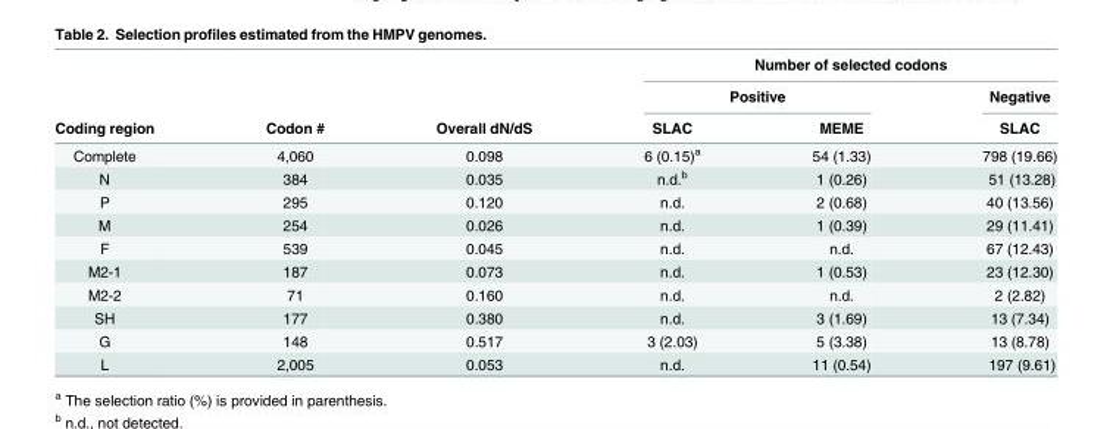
<table><thead><tr><td rowspan="3">Coding region</td><td rowspan="3">Codon #</td><td rowspan="3">Overall dN/dS</td><td colspan="3">Number of selected codons</td></tr><tr><td colspan="2">Positive</td><td rowspan="2">Negative SLAC</td></tr><tr><td>SLAC</td><td>MEME</td></tr></thead><tbody><tr><td>Complete</td><td>4,060</td><td>0.098</td><td>6 (0.15)<sup>a</sup></td><td>54 (1.33)</td><td>798 (19.66)</td></tr><tr><td>N</td><td>384</td><td>0.035</td><td>n.d.<sup>b</sup></td><td>1 (0.26)</td><td>51 (13.28)</td></tr><tr><td>P</td><td>295</td><td>0.120</td><td>n.d.</td><td>2 (0.68)</td><td>40 (13.56)</td></tr><tr><td>M</td><td>254</td><td>0.026</td><td>n.d.</td><td>1 (0.39)</td><td>29 (11.41)</td></tr><tr><td>F</td><td>539</td><td>0.045</td><td>n.d.</td><td>n.d.</td><td>67 (12.43)</td></tr><tr><td>M2-1</td><td>187</td><td>0.073</td><td>n.d.</td><td>1 (0.53)</td><td>23 (12.30)</td></tr><tr><td>M2-2</td><td>71</td><td>0.160</td><td>n.d.</td><td>n.d.</td><td>2 (2.82)</td></tr><tr><td>SH</td><td>177</td><td>0.380</td><td>n.d.</td><td>3 (1.69)</td><td>13 (7.34)</td></tr><tr><td>G</td><td>148</td><td>0.517</td><td>3 (2.03)</td><td>5 (3.38)</td><td>13 (8.78)</td></tr><tr><td>L</td><td>2,005</td><td>0.053</td><td>n.d.</td><td>11 (0.54)</td><td>197 (9.61)</td></tr></tbody></table>